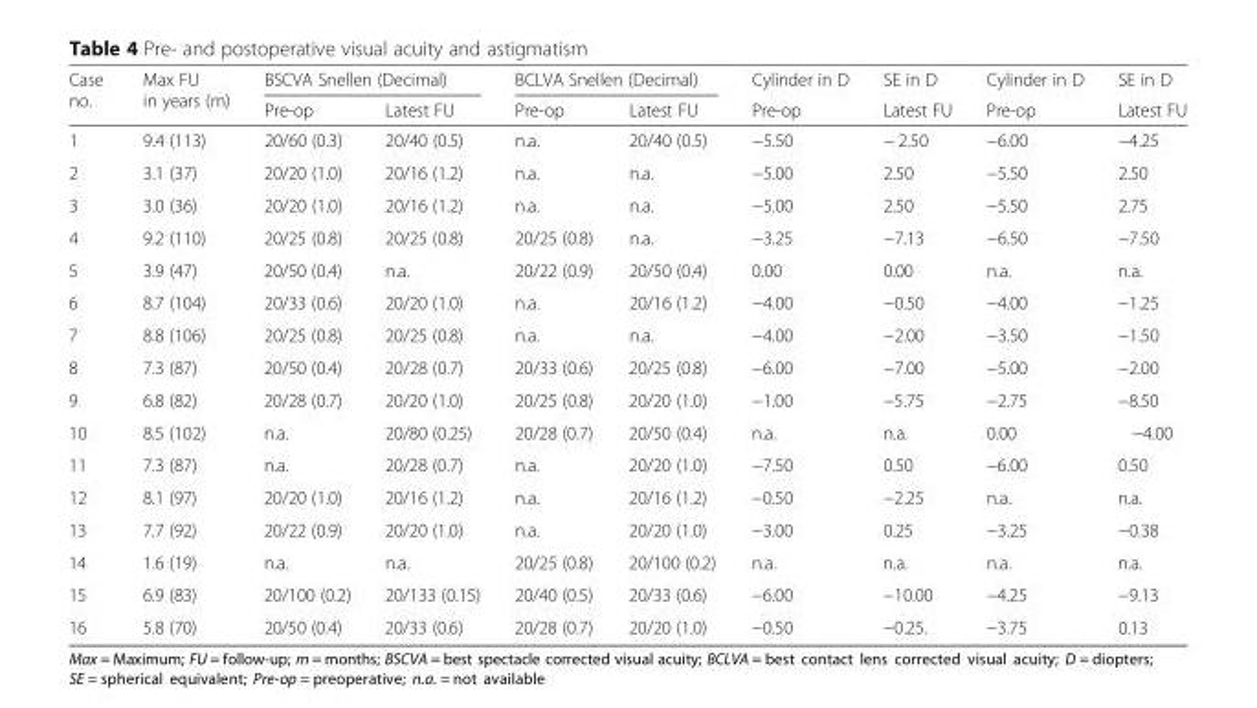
<table><thead><tr><td rowspan="2">Case no.</td><td rowspan="2">Max FU in years (m)</td><td colspan="2">BSCVA Snellen (Decimal)</td><td colspan="2">BCLVA Snellen (Decimal)</td><td rowspan="2">Cylinder in D Pre-op</td><td rowspan="2">SE in D Latest FU</td><td rowspan="2">Cylinder in D Pre-op</td><td rowspan="2">SE in D Latest FU</td></tr><tr><td>Pre-op</td><td>Latest FU</td><td>Pre-op</td><td>Latest FU</td></tr></thead><tbody><tr><td>1</td><td>9.4 (113)</td><td>20/60 (0.3)</td><td>20/40 (0.5)</td><td>n.a.</td><td>20/40 (0.5)</td><td>−5.50</td><td>− 2.50</td><td>−6.00</td><td>−4.25</td></tr><tr><td>2</td><td>3.1 (37)</td><td>20/20 (1.0)</td><td>20/16 (1.2)</td><td>n.a.</td><td>n.a.</td><td>−5.00</td><td>2.50</td><td>−5.50</td><td>2.50</td></tr><tr><td>3</td><td>3.0 (36)</td><td>20/20 (1.0)</td><td>20/16 (1.2)</td><td>n.a.</td><td>n.a.</td><td>−5.00</td><td>2.50</td><td>−5.50</td><td>2.75</td></tr><tr><td>4</td><td>9.2 (110)</td><td>20/25 (0.8)</td><td>20/25 (0.8)</td><td>20/25 (0.8)</td><td>n.a.</td><td>−3.25</td><td>−7.13</td><td>−6.50</td><td>−7.50</td></tr><tr><td>5</td><td>3.9 (47)</td><td>20/50 (0.4)</td><td>n.a.</td><td>20/22 (0.9)</td><td>20/50 (0.4)</td><td>0.00</td><td>0.00</td><td>n.a.</td><td>n.a.</td></tr><tr><td>6</td><td>8.7 (104)</td><td>20/33 (0.6)</td><td>20/20 (1.0)</td><td>n.a.</td><td>20/16 (1.2)</td><td>−4.00</td><td>−0.50</td><td>−4.00</td><td>−1.25</td></tr><tr><td>7</td><td>8.8 (106)</td><td>20/25 (0.8)</td><td>20/25 (0.8)</td><td>n.a.</td><td>n.a.</td><td>−4.00</td><td>−2.00</td><td>−3.50</td><td>−1.50</td></tr><tr><td>8</td><td>7.3 (87)</td><td>20/50 (0.4)</td><td>20/28 (0.7)</td><td>20/33 (0.6)</td><td>20/25 (0.8)</td><td>−6.00</td><td>−7.00</td><td>−5.00</td><td>−2.00</td></tr><tr><td>9</td><td>6.8 (82)</td><td>20/28 (0.7)</td><td>20/20 (1.0)</td><td>20/25 (0.8)</td><td>20/20 (1.0)</td><td>−1.00</td><td>−5.75</td><td>−2.75</td><td>−8.50</td></tr><tr><td>10</td><td>8.5 (102)</td><td>n.a.</td><td>20/80 (0.25)</td><td>20/28 (0.7)</td><td>20/50 (0.4)</td><td>n.a.</td><td>n.a.</td><td>0.00</td><td>−4.00</td></tr><tr><td>11</td><td>7.3 (87)</td><td>n.a.</td><td>20/28 (0.7)</td><td>n.a.</td><td>20/20 (1.0)</td><td>−7.50</td><td>0.50</td><td>−6.00</td><td>0.50</td></tr><tr><td>12</td><td>8.1 (97)</td><td>20/20 (1.0)</td><td>20/16 (1.2)</td><td>n.a.</td><td>20/16 (1.2)</td><td>−0.50</td><td>−2.25</td><td>n.a.</td><td>n.a.</td></tr><tr><td>13</td><td>7.7 (92)</td><td>20/22 (0.9)</td><td>20/20 (1.0)</td><td>n.a.</td><td>20/20 (1.0)</td><td>−3.00</td><td>0.25</td><td>−3.25</td><td>−0.38</td></tr><tr><td>14</td><td>1.6 (19)</td><td>n.a.</td><td>n.a.</td><td>20/25 (0.8)</td><td>20/100 (0.2)</td><td>n.a.</td><td>n.a.</td><td>n.a.</td><td>n.a.</td></tr><tr><td>15</td><td>6.9 (83)</td><td>20/100 (0.2)</td><td>20/133 (0.15)</td><td>20/40 (0.5)</td><td>20/33 (0.6)</td><td>−6.00</td><td>−10.00</td><td>−4.25</td><td>−9.13</td></tr><tr><td>16</td><td>5.8 (70)</td><td>20/50 (0.4)</td><td>20/33 (0.6)</td><td>20/28 (0.7)</td><td>20/20 (1.0)</td><td>−0.50</td><td>−0.25.</td><td>−3.75</td><td>0.13</td></tr></tbody></table>